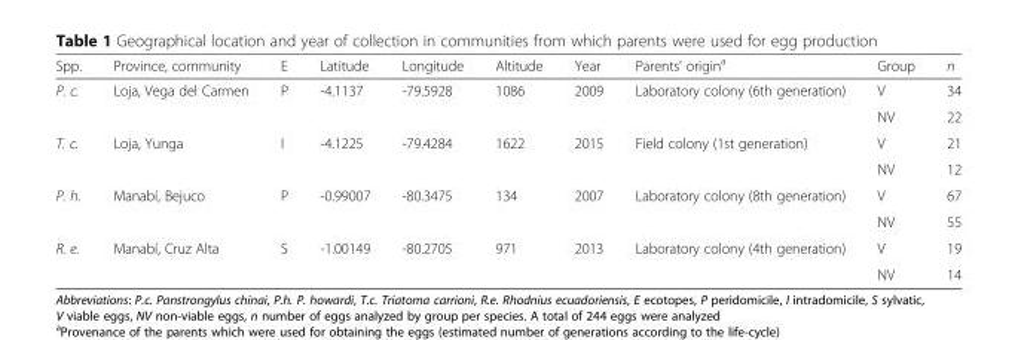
<table><thead><tr><td>Spp.</td><td>Province, community</td><td>E</td><td>Latitude</td><td>Longitude</td><td>Altitude</td><td>Year</td><td>Parents’ origin<sup>a</sup></td><td>Group</td><td>n</td></tr></thead><tbody><tr><td rowspan="2">P. c.</td><td rowspan="2">Loja, Vega del Carmen</td><td rowspan="2">P</td><td rowspan="2">-4.1137</td><td rowspan="2">-79.5928</td><td rowspan="2">1086</td><td rowspan="2">2009</td><td rowspan="2">Laboratory colony (6th generation)</td><td>V</td><td>34</td></tr><tr><td>NV</td><td>22</td></tr><tr><td rowspan="2">T. c.</td><td rowspan="2">Loja, Yunga</td><td rowspan="2">I</td><td rowspan="2">-4.1225</td><td rowspan="2">-79.4284</td><td rowspan="2">1622</td><td rowspan="2">2015</td><td rowspan="2">Field colony (1st generation)</td><td>V</td><td>21</td></tr><tr><td>NV</td><td>12</td></tr><tr><td rowspan="2">P. h.</td><td rowspan="2">Manabí, Bejuco</td><td rowspan="2">P</td><td rowspan="2">-0.99007</td><td rowspan="2">-80.3475</td><td rowspan="2">134</td><td rowspan="2">2007</td><td rowspan="2">Laboratory colony (8th generation)</td><td>V</td><td>67</td></tr><tr><td>NV</td><td>55</td></tr><tr><td rowspan="2">R. e.</td><td rowspan="2">Manabí, Cruz Alta</td><td rowspan="2">S</td><td rowspan="2">-1.00149</td><td rowspan="2">-80.2705</td><td rowspan="2">971</td><td rowspan="2">2013</td><td rowspan="2">Laboratory colony (4th generation)</td><td>V</td><td>19</td></tr><tr><td>NV</td><td>14</td></tr></tbody></table>